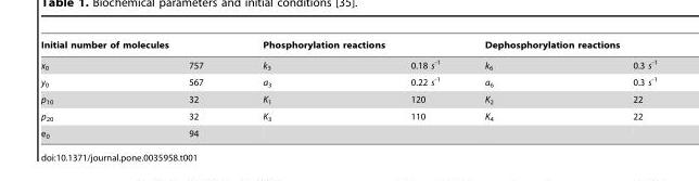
<table><thead><tr><td colspan="2">Initial number of molecules</td><td colspan="2">Phosphorylation reactions</td><td colspan="2">Dephosphorylation reactions</td></tr><tr><td>x<sub>0</sub></td><td>757</td><td>k<sub>3</sub></td><td>0.18 s<sup>-1</sup></td><td>k<sub>6</sub></td><td>0.3 s<sup>-1</sup></td></tr></thead><tbody><tr><td>y<sub>0</sub></td><td>567</td><td>a<sub>3</sub></td><td>0.22 s<sup>-1</sup></td><td>a<sub>6</sub></td><td>0.3 s<sup>-1</sup></td></tr><tr><td>p<sub>10</sub></td><td>32</td><td>K<sub>1</sub></td><td>120</td><td>K<sub>2</sub></td><td>22</td></tr><tr><td>p<sub>20</sub></td><td>32</td><td>K<sub>3</sub></td><td>110</td><td>K<sub>4</sub></td><td>22</td></tr><tr><td>e<sub>0</sub></td><td>94</td><td></td><td></td><td></td><td></td></tr></tbody></table>